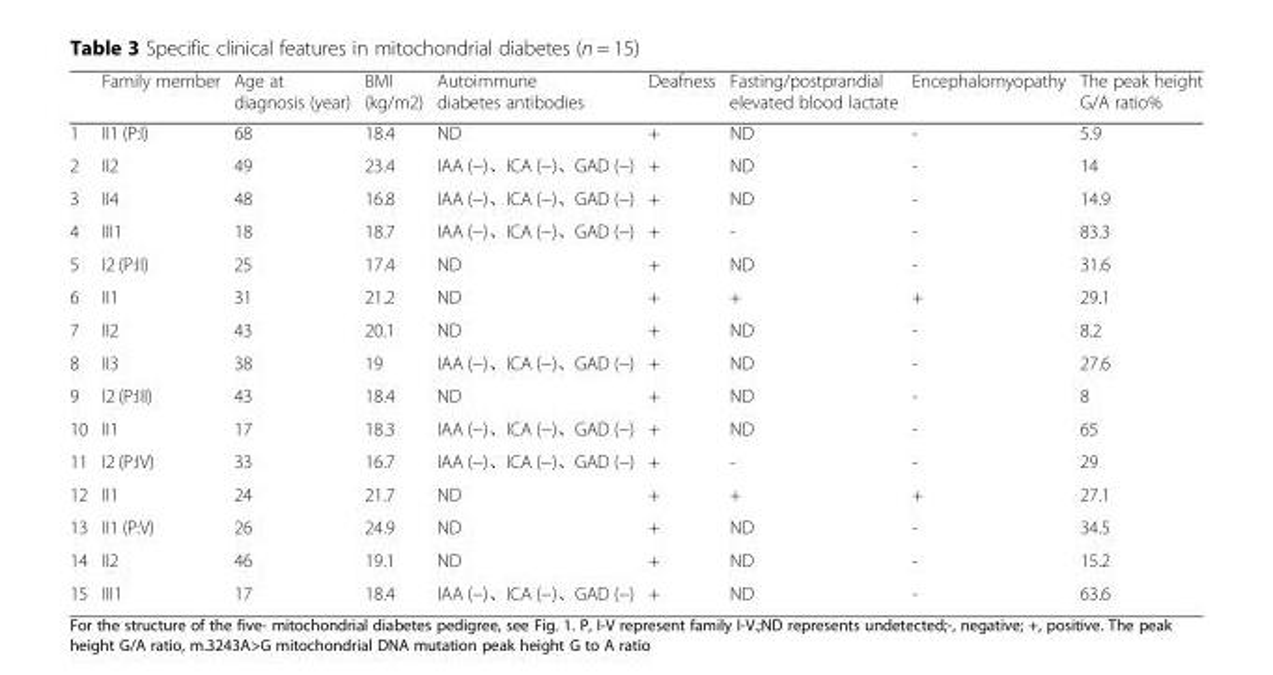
<table><thead><tr><td></td><td>Family member</td><td>Age at diagnosis (year)</td><td>BMI (kg/m2)</td><td>Autoimmune diabetes antibodies</td><td>Deafness</td><td>Fasting/postprandial elevated blood lactate</td><td>Encephalomyopathy</td><td>The peak height G/A ratio%</td></tr></thead><tbody><tr><td>1</td><td>II1 (P:I)</td><td>68</td><td>18.4</td><td>ND</td><td>+</td><td>ND</td><td>-</td><td>5.9</td></tr><tr><td>2</td><td>II2</td><td>49</td><td>23.4</td><td>IAA (−)、ICA (−)、GAD (−)</td><td>+</td><td>ND</td><td>-</td><td>14</td></tr><tr><td>3</td><td>II4</td><td>48</td><td>16.8</td><td>IAA (−)、ICA (−)、GAD (−)</td><td>+</td><td>ND</td><td>-</td><td>14.9</td></tr><tr><td>4</td><td>III1</td><td>18</td><td>18.7</td><td>IAA (−)、ICA (−)、GAD (−)</td><td>+</td><td>-</td><td>-</td><td>83.3</td></tr><tr><td>5</td><td>I2 (P:II)</td><td>25</td><td>17.4</td><td>ND</td><td>+</td><td>ND</td><td>-</td><td>31.6</td></tr><tr><td>6</td><td>II1</td><td>31</td><td>21.2</td><td>ND</td><td>+</td><td>+</td><td>+</td><td>29.1</td></tr><tr><td>7</td><td>II2</td><td>43</td><td>20.1</td><td>ND</td><td>+</td><td>ND</td><td>-</td><td>8.2</td></tr><tr><td>8</td><td>II3</td><td>38</td><td>19</td><td>IAA (−)、ICA (−)、GAD (−)</td><td>+</td><td>ND</td><td>-</td><td>27.6</td></tr><tr><td>9</td><td>I2 (P:III)</td><td>43</td><td>18.4</td><td>ND</td><td>+</td><td>ND</td><td>-</td><td>8</td></tr><tr><td>10</td><td>II1</td><td>17</td><td>18.3</td><td>IAA (−)、ICA (−)、GAD (−)</td><td>+</td><td>ND</td><td>-</td><td>65</td></tr><tr><td>11</td><td>I2 (P:IV)</td><td>33</td><td>16.7</td><td>IAA (−)、ICA (−)、GAD (−)</td><td>+</td><td>-</td><td>-</td><td>29</td></tr><tr><td>12</td><td>II1</td><td>24</td><td>21.7</td><td>ND</td><td>+</td><td>+</td><td>+</td><td>27.1</td></tr><tr><td>13</td><td>II1 (P:V)</td><td>26</td><td>24.9</td><td>ND</td><td>+</td><td>ND</td><td>-</td><td>34.5</td></tr><tr><td>14</td><td>II2</td><td>46</td><td>19.1</td><td>ND</td><td>+</td><td>ND</td><td>-</td><td>15.2</td></tr><tr><td>15</td><td>III1</td><td>17</td><td>18.4</td><td>IAA (−)、ICA (−)、GAD (−)</td><td>+</td><td>ND</td><td>-</td><td>63.6</td></tr></tbody></table>